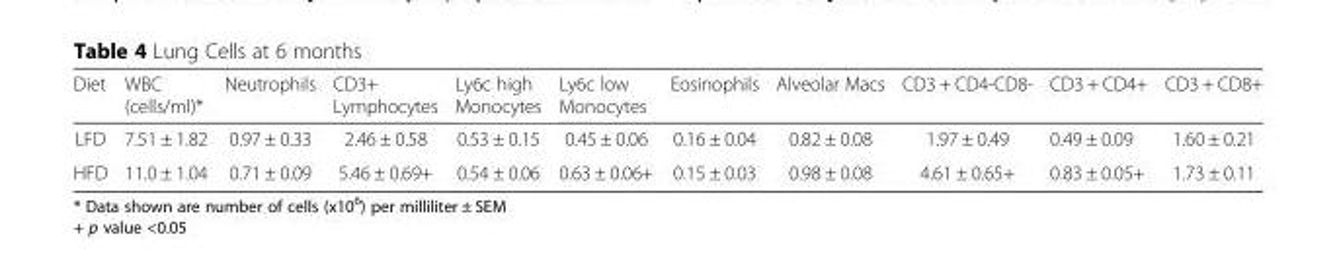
<table><thead><tr><td>Diet</td><td>WBC (cells/ml)*</td><td>Neutrophils</td><td>CD3+ Lymphocytes</td><td>Ly6c high Monocytes</td><td>Ly6c low Monocytes</td><td>Eosinophils</td><td>Alveolar Macs</td><td>CD3 + CD4-CD8-</td><td>CD3 + CD4+</td><td>CD3 + CD8+</td></tr></thead><tbody><tr><td>LFD</td><td>7.51 ± 1.82</td><td>0.97 ± 0.33</td><td>2.46 ± 0.58</td><td>0.53 ± 0.15</td><td>0.45 ± 0.06</td><td>0.16 ± 0.04</td><td>0.82 ± 0.08</td><td>1.97 ± 0.49</td><td>0.49 ± 0.09</td><td>1.60 ± 0.21</td></tr><tr><td>HFD</td><td>11.0 ± 1.04</td><td>0.71 ± 0.09</td><td>5.46 ± 0.69+</td><td>0.54 ± 0.06</td><td>0.63 ± 0.06+</td><td>0.15 ± 0.03</td><td>0.98 ± 0.08</td><td>4.61 ± 0.65+</td><td>0.83 ± 0.05+</td><td>1.73 ± 0.11</td></tr></tbody></table>